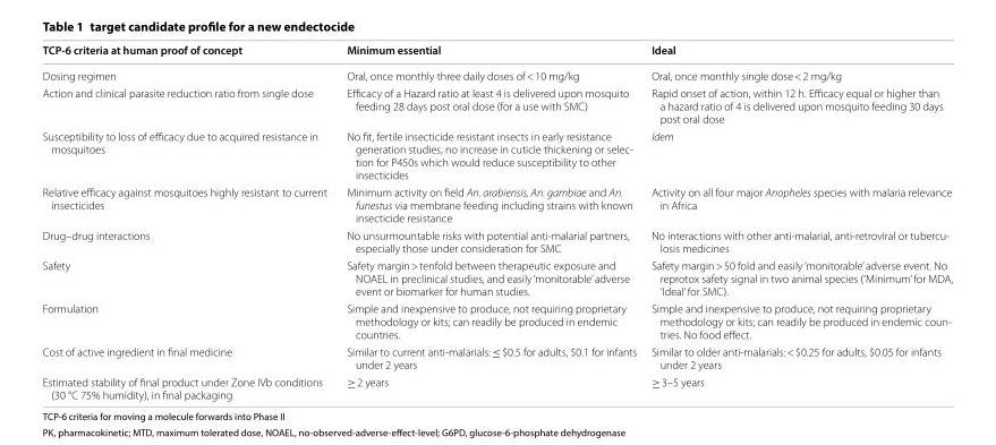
<table><thead><tr><td>TCP‑6 criteria at human proof of concept</td><td>Minimum essential</td><td>Ideal</td></tr></thead><tbody><tr><td>Dosing regimen</td><td>Oral, once monthly three daily doses of &lt; 10 mg/kg</td><td>Oral, once monthly single dose &lt; 2 mg/kg</td></tr><tr><td>Action and clinical parasite reduction ratio from single dose</td><td>Efficacy of a Hazard ratio at least 4 is delivered upon mosquito feeding 28 days post oral dose (for a use with SMC)</td><td>Rapid onset of action, within 12 h. Efficacy equal or higher than a hazard ratio of 4 is delivered upon mosquito feeding 30 days post oral dose</td></tr><tr><td>Susceptibility to loss of efficacy due to acquired resistance in mosquitoes</td><td>No fit, fertile insecticide resistant insects in early resistance generation studies, no increase in cuticle thickening or selec- tion for P450s which would reduce susceptibility to other insecticides</td><td>Idem</td></tr><tr><td>Relative efficacy against mosquitoes highly resistant to current insecticides</td><td>Minimum activity on field An. arabiensis, An. gambiae and An. funestus via membrane feeding including strains with known insecticide resistance</td><td>Activity on all four major Anopheles species with malaria relevance in Africa</td></tr><tr><td>Drug–drug interactions</td><td>No unsurmountable risks with potential anti-malarial partners, especially those under consideration for SMC</td><td>No interactions with other anti-malarial, anti-retroviral or tubercu- losis medicines</td></tr><tr><td>Safety</td><td>Safety margin &gt; tenfold between therapeutic exposure and NOAEL in preclinical studies, and easily ‘monitorable’ adverse event or biomarker for human studies.</td><td>Safety margin &gt; 50 fold and easily ‘monitorable’ adverse event. No reprotox safety signal in two animal species (‘Minimum’ for MDA, ‘Ideal’ for SMC).</td></tr><tr><td>Formulation</td><td>Simple and inexpensive to produce, not requiring proprietary methodology or kits; can readily be produced in endemic countries.</td><td>Simple and inexpensive to produce, not requiring proprietary methodology or kits; can readily be produced in endemic coun- tries. No food effect.</td></tr><tr><td>Cost of active ingredient in final medicine</td><td>Similar to current anti-malarials: ≤ $0.5 for adults, $0.1 for infants under 2 years</td><td>Similar to older anti-malarials: &lt; $0.25 for adults, $0.05 for infants under 2 years</td></tr><tr><td>Estimated stability of final product under Zone IVb conditions (30 °C 75% humidity), in final packaging</td><td>≥ 2 years</td><td>≥ 3–5 years</td></tr></tbody></table>